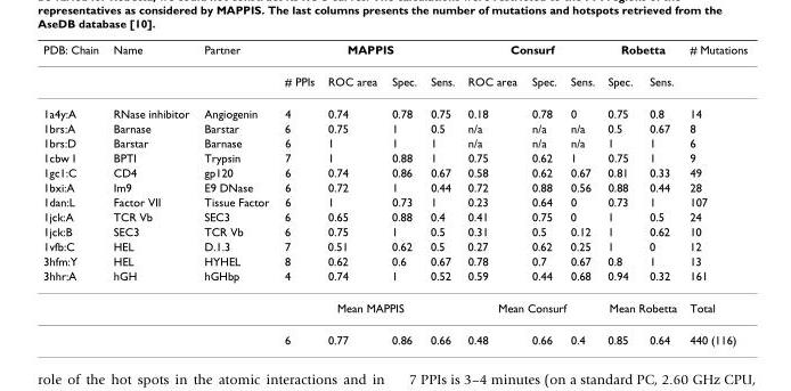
<table><thead><tr><td rowspan="2">PDB: Chain</td><td rowspan="2">Name</td><td rowspan="2">Partner</td><td colspan="4">MAPPIS</td><td colspan="3">Consurf</td><td colspan="2">Robetta</td><td rowspan="2"># Mutations</td></tr><tr><td># PPIs</td><td>ROC area</td><td>Spec.</td><td>Sens.</td><td>ROC area</td><td>Spec.</td><td>Sens.</td><td>Spec.</td><td>Sens.</td></tr></thead><tbody><tr><td>1a4y:A</td><td>RNase inhibitor</td><td>Angiogenin</td><td>4</td><td>0.74</td><td>0.78</td><td>0.75</td><td>0.18</td><td>0.78</td><td>0</td><td>0.75</td><td>0.8</td><td>14</td></tr><tr><td>1brs:A</td><td>Barnase</td><td>Barstar</td><td>6</td><td>0.75</td><td>1</td><td>0.5</td><td>n/a</td><td>n/a</td><td>n/a</td><td>0.5</td><td>0.67</td><td>8</td></tr><tr><td>1brs:D</td><td>Barstar</td><td>Barnase</td><td>6</td><td>1</td><td>1</td><td>1</td><td>n/a</td><td>n/a</td><td>n/a</td><td>1</td><td>1</td><td>6</td></tr><tr><td>1cbw I</td><td>BPTI</td><td>Trypsin</td><td>7</td><td>1</td><td>0.88</td><td>1</td><td>0.75</td><td>0.62</td><td>1</td><td>0.75</td><td>1</td><td>9</td></tr><tr><td>1gc1:C</td><td>CD4</td><td>gp120</td><td>6</td><td>0.74</td><td>0.86</td><td>0.67</td><td>0.58</td><td>0.62</td><td>0.67</td><td>0.81</td><td>0.33</td><td>49</td></tr><tr><td>1bxi:A</td><td>Im9</td><td>E9 DNase</td><td>6</td><td>0.72</td><td>1</td><td>0.44</td><td>0.72</td><td>0.88</td><td>0.56</td><td>0.88</td><td>0.44</td><td>28</td></tr><tr><td>1dan:L</td><td>Factor VII</td><td>Tissue Factor</td><td>6</td><td>1</td><td>0.73</td><td>1</td><td>0.23</td><td>0.64</td><td>0</td><td>0.73</td><td>1</td><td>107</td></tr><tr><td>1jck:A</td><td>TCR Vb</td><td>SEC3</td><td>6</td><td>0.65</td><td>0.88</td><td>0.4</td><td>0.41</td><td>0.75</td><td>0</td><td>1</td><td>0.5</td><td>24</td></tr><tr><td>1jck:B</td><td>SEC3</td><td>TCR Vb</td><td>6</td><td>0.75</td><td>1</td><td>0.5</td><td>0.31</td><td>0.5</td><td>0.12</td><td>1</td><td>0.62</td><td>10</td></tr><tr><td>1vfb:C</td><td>HEL</td><td>D.1.3</td><td>7</td><td>0.51</td><td>0.62</td><td>0.5</td><td>0.27</td><td>0.62</td><td>0.25</td><td>1</td><td>0</td><td>12</td></tr><tr><td>3hfm:Y</td><td>HEL</td><td>HYHEL</td><td>8</td><td>0.62</td><td>0.6</td><td>0.67</td><td>0.78</td><td>0.7</td><td>0.67</td><td>0.8</td><td>1</td><td>13</td></tr><tr><td rowspan="3">3hhr:A</td><td>hGH</td><td>hGHbp</td><td>4</td><td>0.74</td><td>1</td><td>0.52</td><td>0.59</td><td>0.44</td><td>0.68</td><td>0.94</td><td>0.32</td><td>161</td></tr><tr><td></td><td></td><td colspan="4">Mean MAPPIS</td><td colspan="3">Mean Consurf</td><td colspan="2">Mean Robetta</td><td>Total</td></tr><tr><td></td><td></td><td>6</td><td>0.77</td><td>0.86</td><td>0.66</td><td>0.48</td><td>0.66</td><td>0.4</td><td>0.85</td><td>0.64</td><td>440 (116)</td></tr></tbody></table>